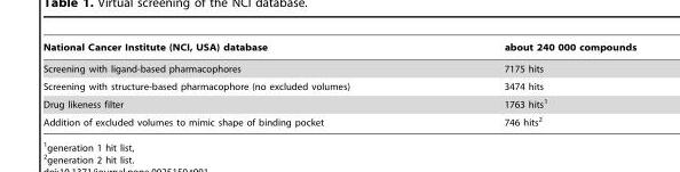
<table><thead><tr><td>National Cancer Institute (NCI, USA) database</td><td>about 240 000 compounds</td></tr></thead><tbody><tr><td>Screening with ligand-based pharmacophores</td><td>7175 hits</td></tr><tr><td>Screening with structure-based pharmacophore (no excluded volumes)</td><td>3474 hits</td></tr><tr><td>Drug likeness filter</td><td>1763 hits<sup>1</sup></td></tr><tr><td>Addition of excluded volumes to mimic shape of binding pocket</td><td>746 hits<sup>2</sup></td></tr></tbody></table>